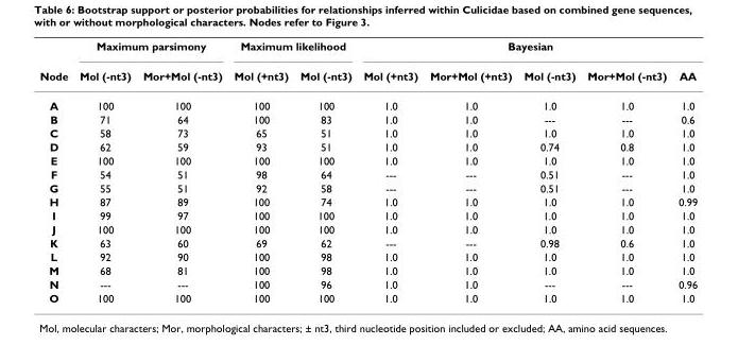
<table><thead><tr><td rowspan="2">Node</td><td colspan="2">Maximum parsimony</td><td colspan="2">Maximum likelihood</td><td colspan="5">Bayesian</td></tr><tr><td>Mol (-nt3)</td><td>Mor+Mol (-nt3)</td><td>Mol (+nt3)</td><td>Mol (-nt3)</td><td>Mol (+nt3)</td><td>Mor+Mol (+nt3)</td><td>Mol (-nt3)</td><td>Mor+Mol (-nt3)</td><td>AA</td></tr></thead><tbody><tr><td>A</td><td>100</td><td>100</td><td>100</td><td>100</td><td>1.0</td><td>1.0</td><td>1.0</td><td>1.0</td><td>1.0</td></tr><tr><td>B</td><td>71</td><td>64</td><td>100</td><td>83</td><td>1.0</td><td>1.0</td><td>---</td><td>---</td><td>0.6</td></tr><tr><td>C</td><td>58</td><td>73</td><td>65</td><td>51</td><td>1.0</td><td>1.0</td><td>1.0</td><td>1.0</td><td>1.0</td></tr><tr><td>D</td><td>62</td><td>59</td><td>93</td><td>51</td><td>1.0</td><td>1.0</td><td>0.74</td><td>0.8</td><td>1.0</td></tr><tr><td>E</td><td>100</td><td>100</td><td>100</td><td>100</td><td>1.0</td><td>1.0</td><td>1.0</td><td>1.0</td><td>1.0</td></tr><tr><td>F</td><td>54</td><td>51</td><td>98</td><td>64</td><td>---</td><td>---</td><td>0.51</td><td>---</td><td>1.0</td></tr><tr><td>G</td><td>55</td><td>51</td><td>92</td><td>58</td><td>---</td><td>---</td><td>0.51</td><td>---</td><td>1.0</td></tr><tr><td>H</td><td>87</td><td>89</td><td>100</td><td>74</td><td>1.0</td><td>1.0</td><td>1.0</td><td>1.0</td><td>0.99</td></tr><tr><td>I</td><td>99</td><td>97</td><td>100</td><td>100</td><td>1.0</td><td>1.0</td><td>1.0</td><td>1.0</td><td>1.0</td></tr><tr><td>J</td><td>100</td><td>100</td><td>100</td><td>100</td><td>1.0</td><td>1.0</td><td>1.0</td><td>1.0</td><td>1.0</td></tr><tr><td>K</td><td>63</td><td>60</td><td>69</td><td>62</td><td>---</td><td>---</td><td>0.98</td><td>0.6</td><td>1.0</td></tr><tr><td>L</td><td>92</td><td>90</td><td>100</td><td>98</td><td>1.0</td><td>1.0</td><td>1.0</td><td>1.0</td><td>1.0</td></tr><tr><td>M</td><td>68</td><td>81</td><td>100</td><td>98</td><td>1.0</td><td>1.0</td><td>1.0</td><td>1.0</td><td>1.0</td></tr><tr><td>N</td><td>---</td><td>---</td><td>100</td><td>96</td><td>1.0</td><td>1.0</td><td>---</td><td>---</td><td>0.96</td></tr><tr><td>O</td><td>100</td><td>100</td><td>100</td><td>100</td><td>1.0</td><td>1.0</td><td>1.0</td><td>1.0</td><td>1.0</td></tr></tbody></table>